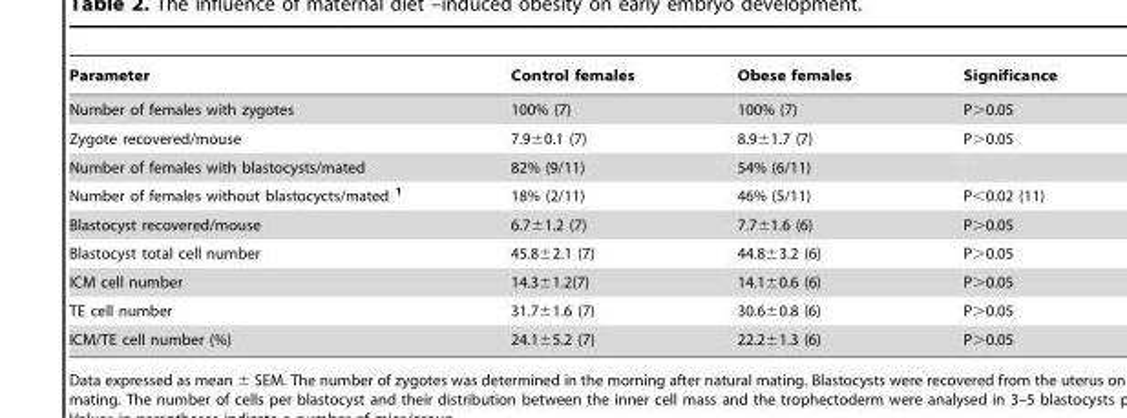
<table><thead><tr><td>Parameter</td><td>Control females</td><td>Obese females</td><td>Significance</td></tr></thead><tbody><tr><td>Number of females with zygotes</td><td>100% (7)</td><td>100% (7)</td><td>P&gt;0.05</td></tr><tr><td>Zygote recovered/mouse</td><td>7.9±0.1 (7)</td><td>8.9±1.7 (7)</td><td>P&gt;0.05</td></tr><tr><td>Number of females with blastocysts/mated</td><td>82% (9/11)</td><td>54% (6/11)</td><td></td></tr><tr><td>Number of females without blastocycts/mated 1</td><td>18% (2/11)</td><td>46% (5/11)</td><td>P&lt;0.02 (11)</td></tr><tr><td>Blastocyst recovered/mouse</td><td>6.7±1.2 (7)</td><td>7.7±1.6 (6)</td><td>P&gt;0.05</td></tr><tr><td>Blastocyst total cell number</td><td>45.8±2.1 (7)</td><td>44.8±3.2 (6)</td><td>P&gt;0.05</td></tr><tr><td>ICM cell number</td><td>14.3±1.2(7)</td><td>14.1±0.6 (6)</td><td>P&gt;0.05</td></tr><tr><td>TE cell number</td><td>31.7±1.6 (7)</td><td>30.6±0.8 (6)</td><td>P&gt;0.05</td></tr><tr><td>ICM/TE cell number (%)</td><td>24.1±5.2 (7)</td><td>22.2±1.3 (6)</td><td>P&gt;0.05</td></tr></tbody></table>